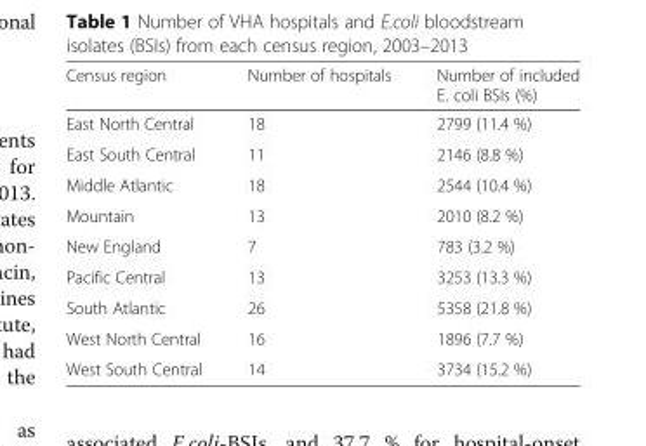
<table><thead><tr><td>Census region</td><td>Number of hospitals</td><td>Number of included E. coli BSIs (%)</td></tr></thead><tbody><tr><td>East North Central</td><td>18</td><td>2799 (11.4 %)</td></tr><tr><td>East South Central</td><td>11</td><td>2146 (8.8 %)</td></tr><tr><td>Middle Atlantic</td><td>18</td><td>2544 (10.4 %)</td></tr><tr><td>Mountain</td><td>13</td><td>2010 (8.2 %)</td></tr><tr><td>New England</td><td>7</td><td>783 (3.2 %)</td></tr><tr><td>Pacific Central</td><td>13</td><td>3253 (13.3 %)</td></tr><tr><td>South Atlantic</td><td>26</td><td>5358 (21.8 %)</td></tr><tr><td>West North Central</td><td>16</td><td>1896 (7.7 %)</td></tr><tr><td>West South Central</td><td>14</td><td>3734 (15.2 %)</td></tr></tbody></table>